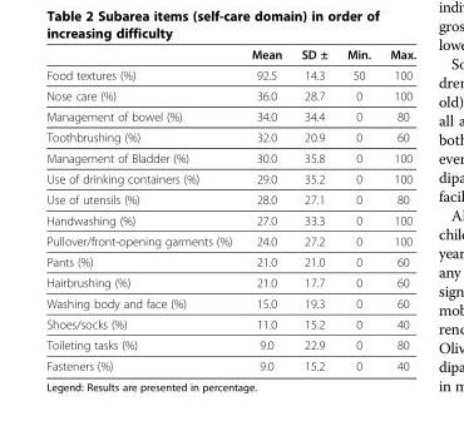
<table><thead><tr><td></td><td>Mean</td><td>SD ±</td><td>Min.</td><td>Max.</td></tr></thead><tbody><tr><td>Food textures (%)</td><td>92.5</td><td>14.3</td><td>50</td><td>100</td></tr><tr><td>Nose care (%)</td><td>36.0</td><td>28.7</td><td>0</td><td>100</td></tr><tr><td>Management of bowel (%)</td><td>34.0</td><td>34.4</td><td>0</td><td>80</td></tr><tr><td>Toothbrushing (%)</td><td>32.0</td><td>20.9</td><td>0</td><td>60</td></tr><tr><td>Management of Bladder (%)</td><td>30.0</td><td>35.8</td><td>0</td><td>100</td></tr><tr><td>Use of drinking containers (%)</td><td>29.0</td><td>35.2</td><td>0</td><td>100</td></tr><tr><td>Use of utensils (%)</td><td>28.0</td><td>27.1</td><td>0</td><td>80</td></tr><tr><td>Handwashing (%)</td><td>27.0</td><td>33.3</td><td>0</td><td>100</td></tr><tr><td>Pullover/front-opening garments (%)</td><td>24.0</td><td>27.2</td><td>0</td><td>100</td></tr><tr><td>Pants (%)</td><td>21.0</td><td>21.0</td><td>0</td><td>60</td></tr><tr><td>Hairbrushing (%)</td><td>21.0</td><td>17.7</td><td>0</td><td>60</td></tr><tr><td>Washing body and face (%)</td><td>15.0</td><td>19.3</td><td>0</td><td>60</td></tr><tr><td>Shoes/socks (%)</td><td>11.0</td><td>15.2</td><td>0</td><td>40</td></tr><tr><td>Toileting tasks (%)</td><td>9.0</td><td>22.9</td><td>0</td><td>80</td></tr><tr><td>Fasteners (%)</td><td>9.0</td><td>15.2</td><td>0</td><td>40</td></tr></tbody></table>